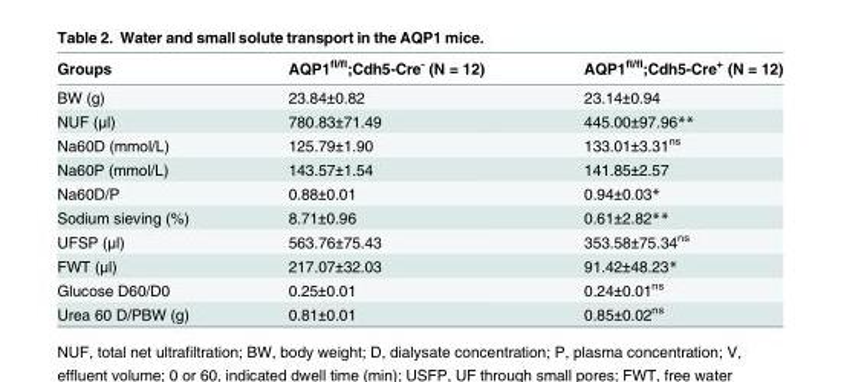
<table><thead><tr><td>Groups</td><td>AQP1<sup>fl/fl</sup>;Cdh5-Cre<sup>-</sup> (N = 12)</td><td>AQP1<sup>fl/fl</sup>;Cdh5-Cre<sup>+</sup> (N = 12)</td></tr></thead><tbody><tr><td>BW (g)</td><td>23.84±0.82</td><td>23.14±0.94</td></tr><tr><td>NUF (μl)</td><td>780.83±71.49</td><td>445.00±97.96**</td></tr><tr><td>Na60D (mmol/L)</td><td>125.79±1.90</td><td>133.01±3.31<sup>ns</sup></td></tr><tr><td>Na60P (mmol/L)</td><td>143.57±1.54</td><td>141.85±2.57</td></tr><tr><td>Na60D/P</td><td>0.88±0.01</td><td>0.94±0.03*</td></tr><tr><td>Sodium sieving (%)</td><td>8.71±0.96</td><td>0.61±2.82**</td></tr><tr><td>UFSP (μl)</td><td>563.76±75.43</td><td>353.58±75.34<sup>ns</sup></td></tr><tr><td>FWT (μl)</td><td>217.07±32.03</td><td>91.42±48.23*</td></tr><tr><td>Glucose D60/D0</td><td>0.25±0.01</td><td>0.24±0.01<sup>ns</sup></td></tr><tr><td>Urea 60 D/PBW (g)</td><td>0.81±0.01</td><td>0.85±0.02<sup>ns</sup></td></tr></tbody></table>